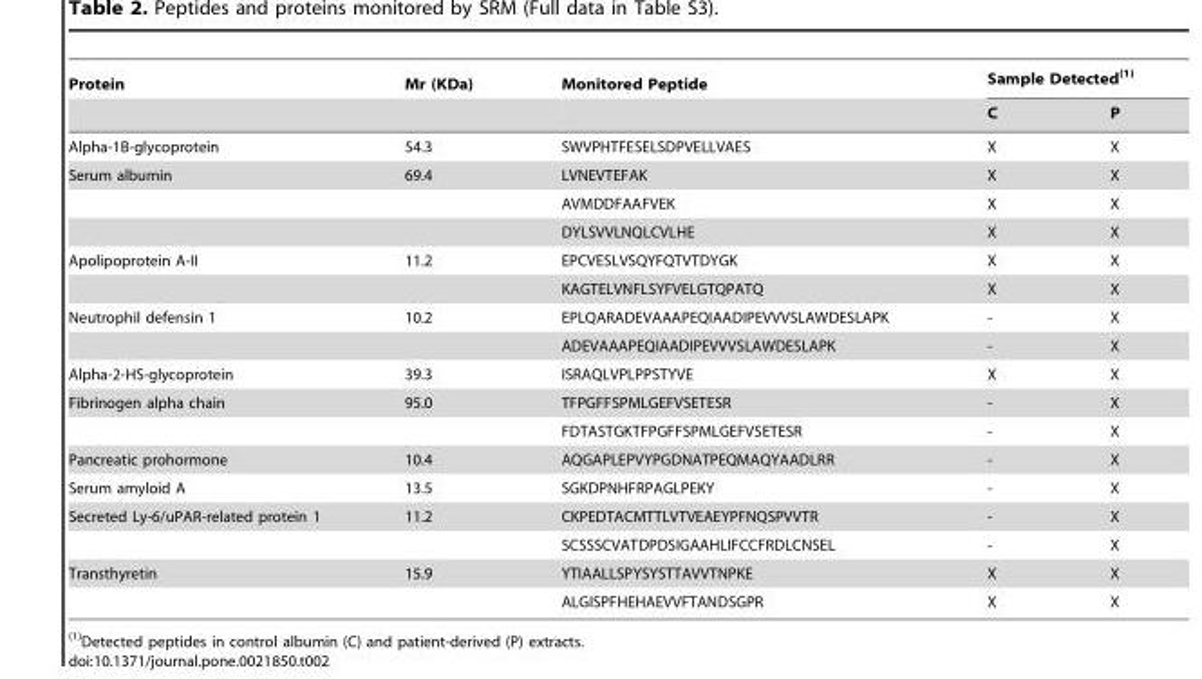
<table><thead><tr><td rowspan="2">Protein</td><td rowspan="2">Mr (KDa)</td><td rowspan="2">Monitored Peptide</td><td colspan="2">Sample Detected(1)</td></tr><tr><td>C</td><td>P</td></tr></thead><tbody><tr><td>Alpha-1B-glycoprotein</td><td>54.3</td><td>SWVPHTFESELSDPVELLVAES</td><td>X</td><td>X</td></tr><tr><td rowspan="3">Serum albumin</td><td>69.4</td><td>LVNEVTEFAK</td><td>X</td><td>X</td></tr><tr><td></td><td>AVMDDFAAFVEK</td><td>X</td><td>X</td></tr><tr><td></td><td>DYLSVVLNQLCVLHE</td><td>X</td><td>X</td></tr><tr><td rowspan="2">Apolipoprotein A-II</td><td>11.2</td><td>EPCVESLVSQYFQTVTDYGK</td><td>X</td><td>X</td></tr><tr><td></td><td>KAGTELVNFLSYFVELGTQPATQ</td><td>X</td><td>X</td></tr><tr><td rowspan="2">Neutrophil defensin 1</td><td>10.2</td><td>EPLQARADEVAAAPEQIAADIPEVVVSLAWDESLAPK</td><td>-</td><td>X</td></tr><tr><td></td><td>ADEVAAAPEQIAADIPEVVVSLAWDESLAPK</td><td>-</td><td>X</td></tr><tr><td>Alpha-2-HS-glycoprotein</td><td>39.3</td><td>ISRAQLVPLPPSTYVE</td><td>X</td><td>X</td></tr><tr><td rowspan="2">Fibrinogen alpha chain</td><td>95.0</td><td>TFPGFFSPMLGEFVSETESR</td><td>-</td><td>X</td></tr><tr><td></td><td>FDTASTGKTFPGFFSPMLGEFVSETESR</td><td>-</td><td>X</td></tr><tr><td>Pancreatic prohormone</td><td>10.4</td><td>AQGAPLEPVYPGDNATPEQMAQYAADLRR</td><td>-</td><td>X</td></tr><tr><td>Serum amyloid A</td><td>13.5</td><td>SGKDPNHFRPAGLPEKY</td><td>-</td><td>X</td></tr><tr><td rowspan="2">Secreted Ly-6/uPAR-related protein 1</td><td>11.2</td><td>CKPEDTACMTTLVTVEAEYPFNQSPVVTR</td><td>-</td><td>X</td></tr><tr><td></td><td>SCSSSCVATDPDSIGAAHLIFCCFRDLCNSEL</td><td>-</td><td>X</td></tr><tr><td rowspan="2">Transthyretin</td><td>15.9</td><td>YTIAALLSPYSYSTTAVVTNPKE</td><td>X</td><td>X</td></tr><tr><td></td><td>ALGISPFHEHAEVVFTANDSGPR</td><td>X</td><td>X</td></tr></tbody></table>